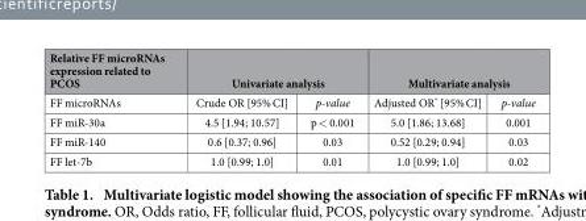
<table><thead><tr><td rowspan="2">Relative FF microRNAs expression related to PCOS FF microRNAs</td><td colspan="2">Univariate analysis</td><td colspan="2">Multivariate analysis</td></tr><tr><td>Crude OR [95% CI]</td><td>p-value</td><td>Adjusted OR* [95% CI]</td><td>p-value</td></tr></thead><tbody><tr><td>FF miR-30a</td><td>4.5 [1.94; 10.57]</td><td>p &lt; 0.001</td><td>5.0 [1.86; 13.68]</td><td>0.001</td></tr><tr><td>FF miR-140</td><td>0.6 [0.37; 0.96]</td><td>0.03</td><td>0.52 [0.29; 0.94]</td><td>0.03</td></tr><tr><td>FF let-7b</td><td>1.0 [0.99; 1.0]</td><td>0.01</td><td>1.0 [0.99; 1.0]</td><td>0.02</td></tr></tbody></table>